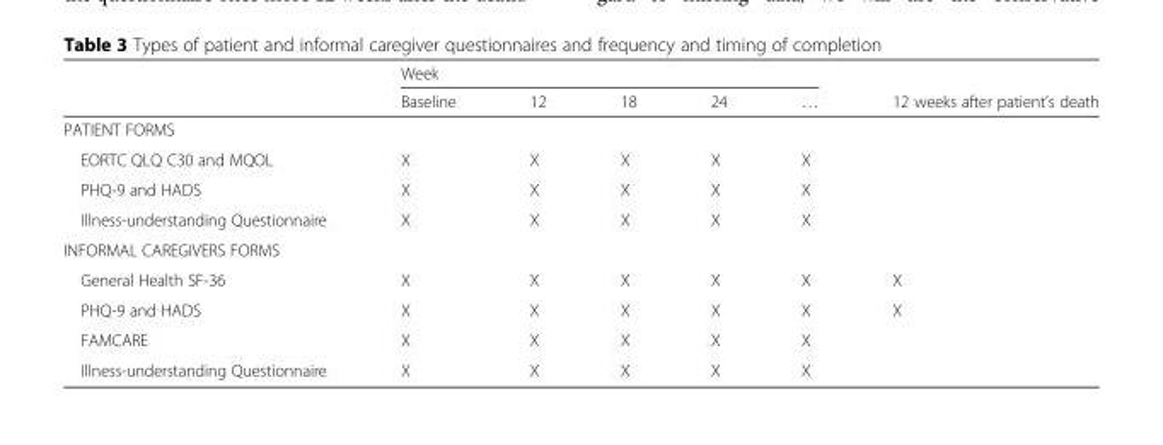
<table><thead><tr><td rowspan="2"></td><td colspan="5">Week</td><td rowspan="2">12 weeks after patient’s death</td></tr><tr><td>Baseline</td><td>12</td><td>18</td><td>24</td><td>…</td></tr></thead><tbody><tr><td colspan="7">PATIENT FORMS</td></tr><tr><td>EORTC QLQ C30 and MQOL</td><td>X</td><td>X</td><td>X</td><td>X</td><td>X</td><td></td></tr><tr><td>PHQ-9 and HADS</td><td>X</td><td>X</td><td>X</td><td>X</td><td>X</td><td></td></tr><tr><td>Illness-understanding Questionnaire</td><td>X</td><td>X</td><td>X</td><td>X</td><td>X</td><td></td></tr><tr><td colspan="7">INFORMAL CAREGIVERS FORMS</td></tr><tr><td>General Health SF-36</td><td>X</td><td>X</td><td>X</td><td>X</td><td>X</td><td>X</td></tr><tr><td>PHQ-9 and HADS</td><td>X</td><td>X</td><td>X</td><td>X</td><td>X</td><td>X</td></tr><tr><td>FAMCARE</td><td>X</td><td>X</td><td>X</td><td>X</td><td>X</td><td></td></tr><tr><td>Illness-understanding Questionnaire</td><td>X</td><td>X</td><td>X</td><td>X</td><td>X</td><td></td></tr></tbody></table>